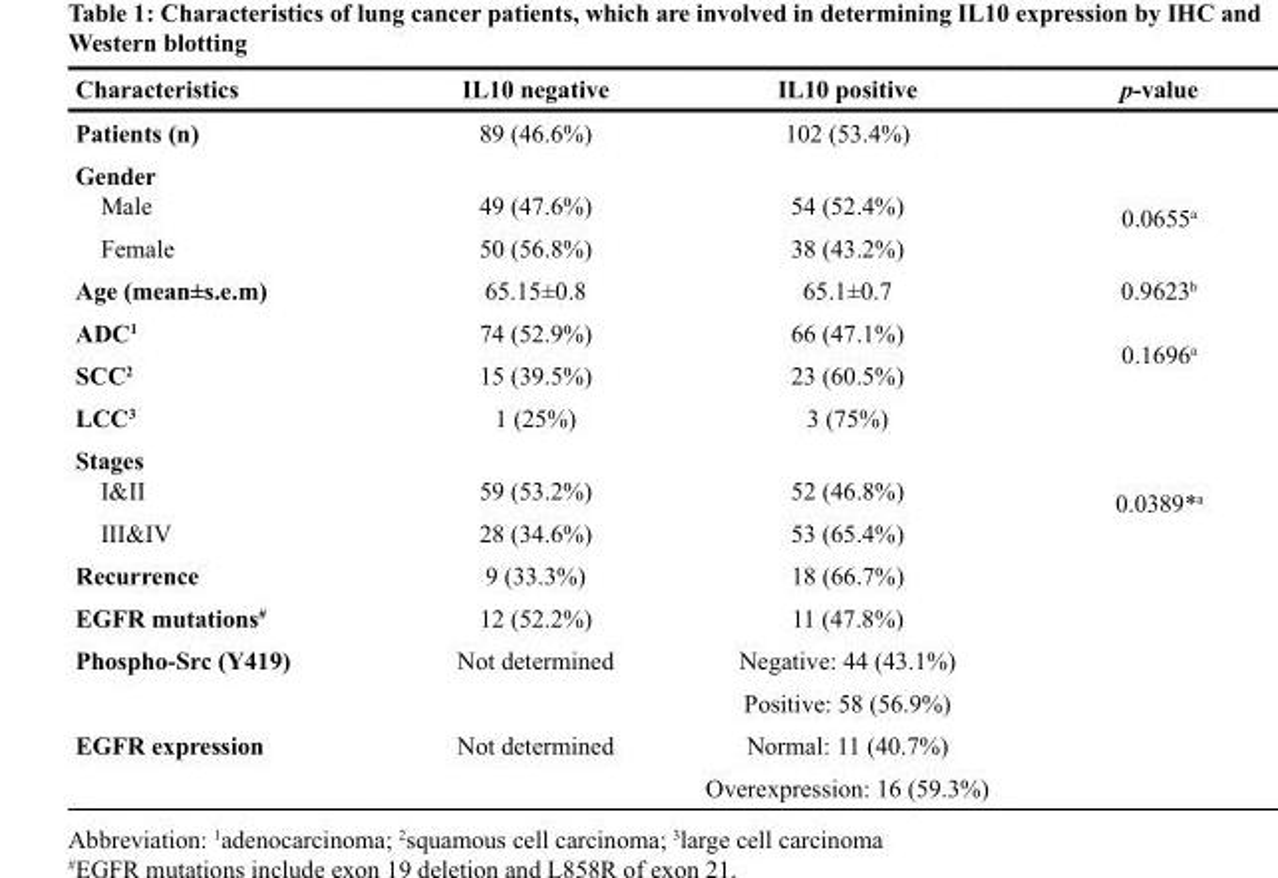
<table><thead><tr><td>Characteristics</td><td>IL10 negative</td><td>IL10 positive</td><td>p-value</td></tr></thead><tbody><tr><td>Patients (n)</td><td>89 (46.6%)</td><td>102 (53.4%)</td><td></td></tr><tr><td colspan="4">Gender</td></tr><tr><td>Male</td><td>49 (47.6%)</td><td>54 (52.4%)</td><td rowspan="2">0.0655<sup>a</sup></td></tr><tr><td>Female</td><td>50 (56.8%)</td><td>38 (43.2%)</td></tr><tr><td>Age (mean±s.e.m)</td><td>65.15±0.8</td><td>65.1±0.7</td><td>0.9623<sup>b</sup></td></tr><tr><td>ADC<sup>1</sup></td><td>74 (52.9%)</td><td>66 (47.1%)</td><td rowspan="2">0.1696<sup>a</sup></td></tr><tr><td>SCC<sup>2</sup></td><td>15 (39.5%)</td><td>23 (60.5%)</td></tr><tr><td>LCC<sup>3</sup></td><td>1 (25%)</td><td>3 (75%)</td><td></td></tr><tr><td colspan="4">Stages</td></tr><tr><td>I&amp;II</td><td>59 (53.2%)</td><td>52 (46.8%)</td><td rowspan="2">0.0389*<sup>a</sup></td></tr><tr><td>III&amp;IV</td><td>28 (34.6%)</td><td>53 (65.4%)</td></tr><tr><td>Recurrence</td><td>9 (33.3%)</td><td>18 (66.7%)</td><td></td></tr><tr><td>EGFR mutations<sup>#</sup></td><td>12 (52.2%)</td><td>11 (47.8%)</td><td></td></tr><tr><td rowspan="2">Phospho-Src (Y419)</td><td>Not determined</td><td>Negative: 44 (43.1%)</td><td></td></tr><tr><td></td><td>Positive: 58 (56.9%)</td><td></td></tr><tr><td rowspan="2">EGFR expression</td><td>Not determined</td><td>Normal: 11 (40.7%)</td><td></td></tr><tr><td></td><td>Overexpression: 16 (59.3%)</td><td></td></tr></tbody></table>